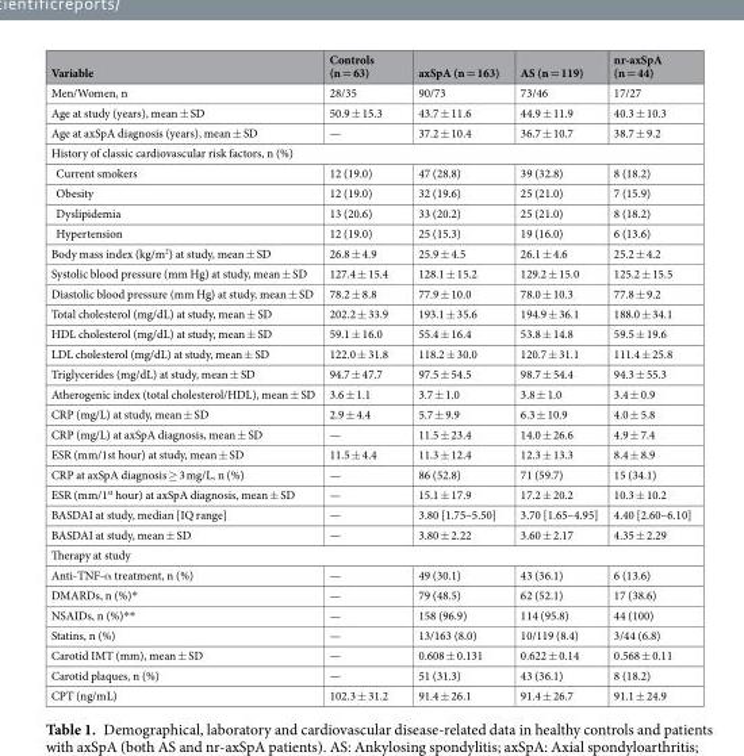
<table><thead><tr><td>Variable</td><td>Controls (n = 63)</td><td>axSpA (n = 163)</td><td>AS (n = 119)</td><td>nr-axSpA (n = 44)</td></tr></thead><tbody><tr><td>Men/Women, n</td><td>28/35</td><td>90/73</td><td>73/46</td><td>17/27</td></tr><tr><td>Age at study (years), mean ± SD</td><td>50.9 ± 15.3</td><td>43.7 ± 11.6</td><td>44.9 ± 11.9</td><td>40.3 ± 10.3</td></tr><tr><td>Age at axSpA diagnosis (years), mean ± SD</td><td>—</td><td>37.2 ± 10.4</td><td>36.7 ± 10.7</td><td>38.7 ± 9.2</td></tr><tr><td colspan="5">History of classic cardiovascular risk factors, n (%)</td></tr><tr><td>Current smokers</td><td>12 (19.0)</td><td>47 (28.8)</td><td>39 (32.8)</td><td>8 (18.2)</td></tr><tr><td>Obesity</td><td>12 (19.0)</td><td>32 (19.6)</td><td>25 (21.0)</td><td>7 (15.9)</td></tr><tr><td>Dyslipidemia</td><td>13 (20.6)</td><td>33 (20.2)</td><td>25 (21.0)</td><td>8 (18.2)</td></tr><tr><td>Hypertension</td><td>12 (19.0)</td><td>25 (15.3)</td><td>19 (16.0)</td><td>6 (13.6)</td></tr><tr><td>Body mass index (kg/m<sup>2</sup>) at study, mean ± SD</td><td>26.8 ± 4.9</td><td>25.9 ± 4.5</td><td>26.1 ± 4.6</td><td>25.2 ± 4.2</td></tr><tr><td>Systolic blood pressure (mm Hg) at study, mean ± SD</td><td>127.4 ± 15.4</td><td>128.1 ± 15.2</td><td>129.2 ± 15.0</td><td>125.2 ± 15.5</td></tr><tr><td>Diastolic blood pressure (mm Hg) at study, mean ± SD</td><td>78.2 ± 8.8</td><td>77.9 ± 10.0</td><td>78.0 ± 10.3</td><td>77.8 ± 9.2</td></tr><tr><td>Total cholesterol (mg/dL) at study, mean ± SD</td><td>202.2 ± 33.9</td><td>193.1 ± 35.6</td><td>194.9 ± 36.1</td><td>188.0 ± 34.1</td></tr><tr><td>HDL cholesterol (mg/dL) at study, mean ± SD</td><td>59.1 ± 16.0</td><td>55.4 ± 16.4</td><td>53.8 ± 14.8</td><td>59.5 ± 19.6</td></tr><tr><td>LDL cholesterol (mg/dL) at study, mean ± SD</td><td>122.0 ± 31.8</td><td>118.2 ± 30.0</td><td>120.7 ± 31.1</td><td>111.4 ± 25.8</td></tr><tr><td>Triglycerides (mg/dL) at study, mean ± SD</td><td>94.7 ± 47.7</td><td>97.5 ± 54.5</td><td>98.7 ± 54.4</td><td>94.3 ± 55.3</td></tr><tr><td>Atherogenic index (total cholesterol/HDL), mean ± SD</td><td>3.6 ± 1.1</td><td>3.7 ± 1.0</td><td>3.8 ± 1.0</td><td>3.4 ± 0.9</td></tr><tr><td>CRP (mg/L) at study, mean ± SD</td><td>2.9 ± 4.4</td><td>5.7 ± 9.9</td><td>6.3 ± 10.9</td><td>4.0 ± 5.8</td></tr><tr><td>CRP (mg/L) at axSpA diagnosis, mean ± SD</td><td>—</td><td>11.5 ± 23.4</td><td>14.0 ± 26.6</td><td>4.9 ± 7.4</td></tr><tr><td>ESR (mm/1st hour) at study, mean ± SD</td><td>11.5 ± 4.4</td><td>11.3 ± 12.4</td><td>12.3 ± 13.3</td><td>8.4 ± 8.9</td></tr><tr><td>CRP at axSpA diagnosis ≥ 3 mg/L, n (%)</td><td>—</td><td>86 (52.8)</td><td>71 (59.7)</td><td>15 (34.1)</td></tr><tr><td>ESR (mm/1<sup>st</sup> hour) at axSpA diagnosis, mean ± SD</td><td>—</td><td>15.1 ± 17.9</td><td>17.2 ± 20.2</td><td>10.3 ± 10.2</td></tr><tr><td>BASDAI at study, median [IQ range]</td><td>—</td><td>3.80 [1.75–5.50]</td><td>3.70 [1.65–4.95]</td><td>4.40 [2.60–6.10]</td></tr><tr><td>BASDAI at study, mean ± SD</td><td>—</td><td>3.80 ± 2.22</td><td>3.60 ± 2.17</td><td>4.35 ± 2.29</td></tr><tr><td colspan="5">Therapy at study</td></tr><tr><td>Anti-TNF-α treatment, n (%)</td><td>—</td><td>49 (30.1)</td><td>43 (36.1)</td><td>6 (13.6)</td></tr><tr><td>DMARDs, n (%)*</td><td>—</td><td>79 (48.5)</td><td>62 (52.1)</td><td>17 (38.6)</td></tr><tr><td>NSAIDs, n (%)**</td><td>—</td><td>158 (96.9)</td><td>114 (95.8)</td><td>44 (100)</td></tr><tr><td>Statins, n (%)</td><td>—</td><td>13/163 (8.0)</td><td>10/119 (8.4)</td><td>3/44 (6.8)</td></tr><tr><td>Carotid IMT (mm), mean ± SD</td><td>—</td><td>0.608 ± 0.131</td><td>0.622 ± 0.14</td><td>0.568 ± 0.11</td></tr><tr><td>Carotid plaques, n (%)</td><td>—</td><td>51 (31.3)</td><td>43 (36.1)</td><td>8 (18.2)</td></tr><tr><td>CPT (ng/mL)</td><td>102.3 ± 31.2</td><td>91.4 ± 26.1</td><td>91.4 ± 26.7</td><td>91.1 ± 24.9</td></tr></tbody></table>